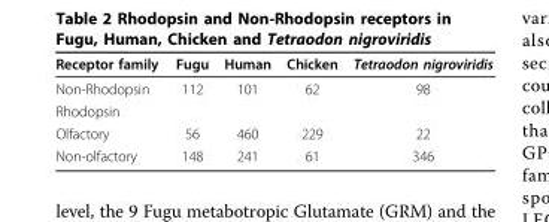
<table><thead><tr><td>Receptor family</td><td>Fugu</td><td>Human</td><td>Chicken</td><td>Tetraodon nigroviridis</td></tr></thead><tbody><tr><td>Non-Rhodopsin</td><td>112</td><td>101</td><td>62</td><td>98</td></tr><tr><td colspan="5">Rhodopsin</td></tr><tr><td>Olfactory</td><td>56</td><td>460</td><td>229</td><td>22</td></tr><tr><td>Non-olfactory</td><td>148</td><td>241</td><td>61</td><td>346</td></tr></tbody></table>